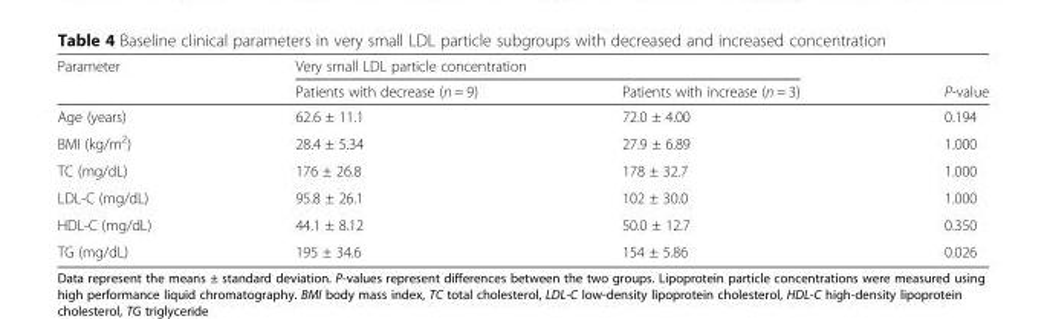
<table><thead><tr><td rowspan="2">Parameter</td><td colspan="2">Very small LDL particle concentration</td><td rowspan="2">P-value</td></tr><tr><td>Patients with decrease (n = 9)</td><td>Patients with increase (n = 3)</td></tr></thead><tbody><tr><td>Age (years)</td><td>62.6 ± 11.1</td><td>72.0 ± 4.00</td><td>0.194</td></tr><tr><td>BMI (kg/m<sup>2</sup>)</td><td>28.4 ± 5.34</td><td>27.9 ± 6.89</td><td>1.000</td></tr><tr><td>TC (mg/dL)</td><td>176 ± 26.8</td><td>178 ± 32.7</td><td>1.000</td></tr><tr><td>LDL-C (mg/dL)</td><td>95.8 ± 26.1</td><td>102 ± 30.0</td><td>1.000</td></tr><tr><td>HDL-C (mg/dL)</td><td>44.1 ± 8.12</td><td>50.0 ± 12.7</td><td>0.350</td></tr><tr><td>TG (mg/dL)</td><td>195 ± 34.6</td><td>154 ± 5.86</td><td>0.026</td></tr></tbody></table>